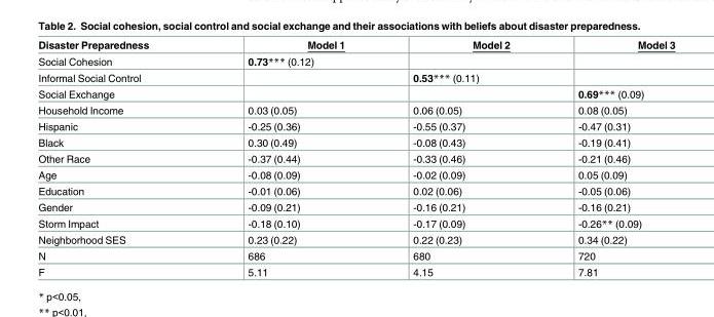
<table><thead><tr><td>Disaster Preparedness</td><td>Model 1</td><td>Model 2</td><td>Model 3</td></tr></thead><tbody><tr><td>Social Cohesion</td><td>0.73*** (0.12)</td><td></td><td></td></tr><tr><td>Informal Social Control</td><td></td><td>0.53*** (0.11)</td><td></td></tr><tr><td>Social Exchange</td><td></td><td></td><td>0.69*** (0.09)</td></tr><tr><td>Household Income</td><td>0.03 (0.05)</td><td>0.06 (0.05)</td><td>0.08 (0.05)</td></tr><tr><td>Hispanic</td><td>-0.25 (0.36)</td><td>-0.55 (0.37)</td><td>-0.47 (0.31)</td></tr><tr><td>Black</td><td>0.30 (0.49)</td><td>-0.08 (0.43)</td><td>-0.19 (0.41)</td></tr><tr><td>Other Race</td><td>-0.37 (0.44)</td><td>-0.33 (0.46)</td><td>-0.21 (0.46)</td></tr><tr><td>Age</td><td>-0.08 (0.09)</td><td>-0.02 (0.09)</td><td>0.05 (0.09)</td></tr><tr><td>Education</td><td>-0.01 (0.06)</td><td>0.02 (0.06)</td><td>-0.05 (0.06)</td></tr><tr><td>Gender</td><td>-0.09 (0.21)</td><td>-0.16 (0.21)</td><td>-0.16 (0.21)</td></tr><tr><td>Storm Impact</td><td>-0.18 (0.10)</td><td>-0.17 (0.09)</td><td>-0.26** (0.09)</td></tr><tr><td>Neighborhood SES</td><td>0.23 (0.22)</td><td>0.22 (0.23)</td><td>0.34 (0.22)</td></tr><tr><td>N</td><td>686</td><td>680</td><td>720</td></tr><tr><td>F</td><td>5.11</td><td>4.15</td><td>7.81</td></tr></tbody></table>